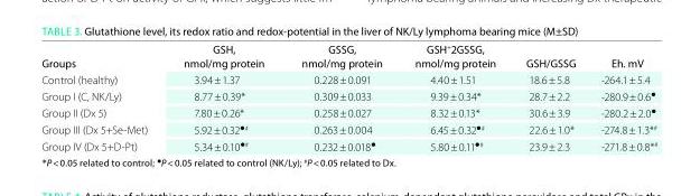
<table><thead><tr><td>Groups</td><td>GSh, nmol/mg protein</td><td>GSSG, nmol/mg protein</td><td>GSh<sup>+</sup>2GSSG, nmol/mg protein</td><td>GSh/GSSG</td><td>eh. mV</td></tr></thead><tbody><tr><td>Control (healthy)</td><td>3.94 ± 1.37</td><td>0.228 ± 0.091</td><td>4.40 ± 1.51</td><td>18.6 ± 5.8</td><td>-264.1 ± 5.4</td></tr><tr><td>Group I (C, NK/Ly)</td><td>8.77 ± 0.39*</td><td>0.309 ± 0.033</td><td>9.39 ± 0.34*</td><td>28.7 ± 2.2</td><td>-280.9 ± 0.6<sup>●</sup></td></tr><tr><td>Group II (Dx 5)</td><td>7.80 ± 0.26*</td><td>0.258 ± 0.027</td><td>8.32 ± 0.13*</td><td>30.6 ± 3.9</td><td>-280.2 ± 2.0<sup>●</sup></td></tr><tr><td>Group III (Dx 5+Se-Met)</td><td>5.92 ± 0.32<sup>●#</sup></td><td>0.263 ± 0.004</td><td>6.45 ± 0.32<sup>●#</sup></td><td>22.6 ± 1.0*</td><td>-274.8 ± 1.3*<sup>#</sup></td></tr><tr><td>Group IV (Dx 5+D-Pt)</td><td>5.34 ± 0.10<sup>●#</sup></td><td>0.232 ± 0.018<sup>●</sup></td><td>5.80 ± 0.11<sup>●#</sup></td><td>23.9 ± 2.3</td><td>-271.8 ± 0.8*<sup>#</sup></td></tr></tbody></table>